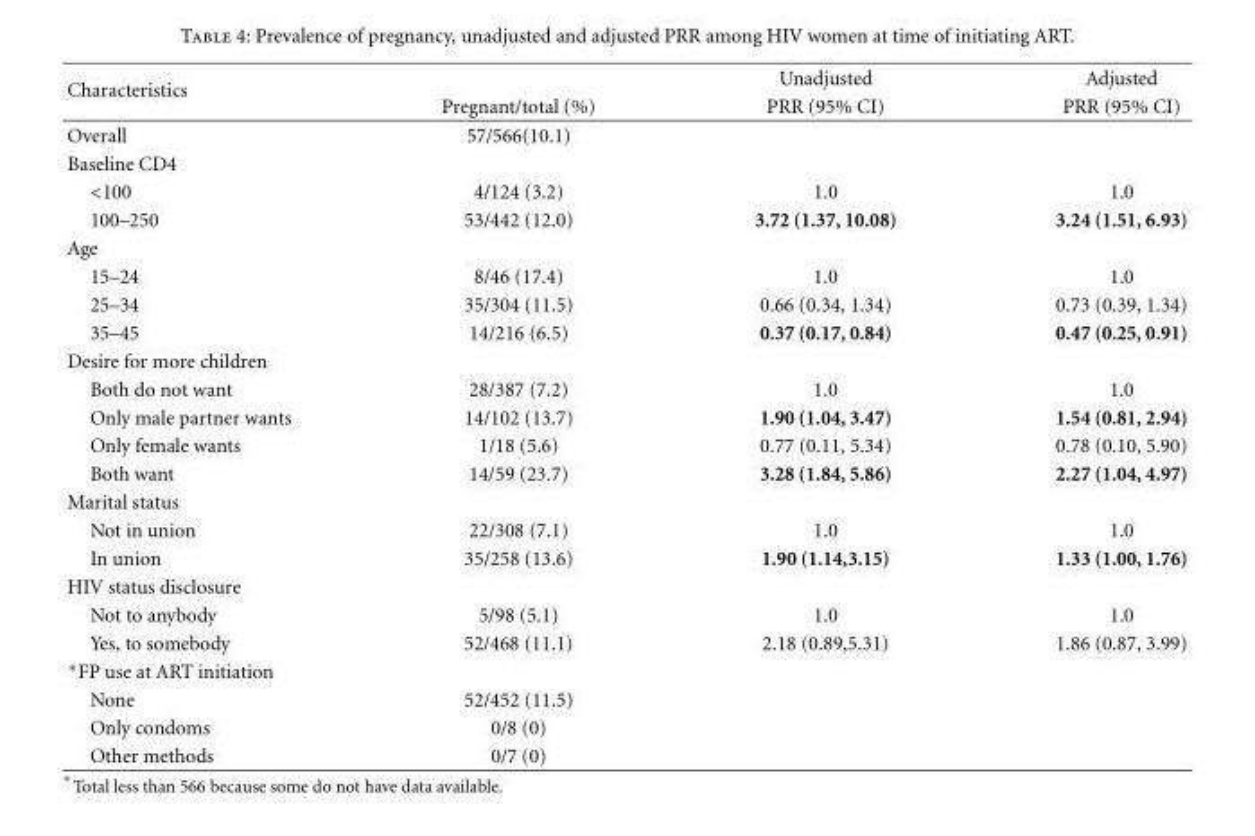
<table><thead><tr><td rowspan="2">Characteristics</td><td rowspan="2">Pregnant/total (%)</td><td rowspan="2">Unadjusted PRR (95% CI)</td><td rowspan="2">Adjusted PRR (95% CI)</td></tr><tr></tr></thead><tbody><tr><td>Overall</td><td>57/566(10.1)</td><td></td><td></td></tr><tr><td colspan="4">Baseline CD4</td></tr><tr><td>&lt;100</td><td>4/124 (3.2)</td><td>1.0</td><td>1.0</td></tr><tr><td>100–250</td><td>53/442 (12.0)</td><td>3.72 (1.37, 10.08)</td><td>3.24 (1.51, 6.93)</td></tr><tr><td colspan="4">Age</td></tr><tr><td>15–24</td><td>8/46 (17.4)</td><td>1.0</td><td>1.0</td></tr><tr><td>25–34</td><td>35/304 (11.5)</td><td>0.66 (0.34, 1.34)</td><td>0.73 (0.39, 1.34)</td></tr><tr><td>35–45</td><td>14/216 (6.5)</td><td>0.37 (0.17, 0.84)</td><td>0.47 (0.25, 0.91)</td></tr><tr><td colspan="4">Desire for more children</td></tr><tr><td>Both do not want</td><td>28/387 (7.2)</td><td>1.0</td><td>1.0</td></tr><tr><td>Only male partner wants</td><td>14/102 (13.7)</td><td>1.90 (1.04, 3.47)</td><td>1.54 (0.81, 2.94)</td></tr><tr><td>Only female wants</td><td>1/18 (5.6)</td><td>0.77 (0.11, 5.34)</td><td>0.78 (0.10, 5.90)</td></tr><tr><td>Both want</td><td>14/59 (23.7)</td><td>3.28 (1.84, 5.86)</td><td>2.27 (1.04, 4.97)</td></tr><tr><td colspan="4">Marital status</td></tr><tr><td>Not in union</td><td>22/308 (7.1)</td><td>1.0</td><td>1.0</td></tr><tr><td>In union</td><td>35/258 (13.6)</td><td>1.90 (1.14,3.15)</td><td>1.33 (1.00, 1.76)</td></tr><tr><td colspan="4">HIV status disclosure</td></tr><tr><td>Not to anybody</td><td>5/98 (5.1)</td><td>1.0</td><td>1.0</td></tr><tr><td>Yes, to somebody</td><td>52/468 (11.1)</td><td>2.18 (0.89,5.31)</td><td>1.86 (0.87, 3.99)</td></tr><tr><td colspan="4">∗FP use at ART initiation</td></tr><tr><td>None</td><td>52/452 (11.5)</td><td></td><td></td></tr><tr><td>Only condoms</td><td>0/8 (0)</td><td></td><td></td></tr><tr><td>Other methods</td><td>0/7 (0)</td><td></td><td></td></tr></tbody></table>